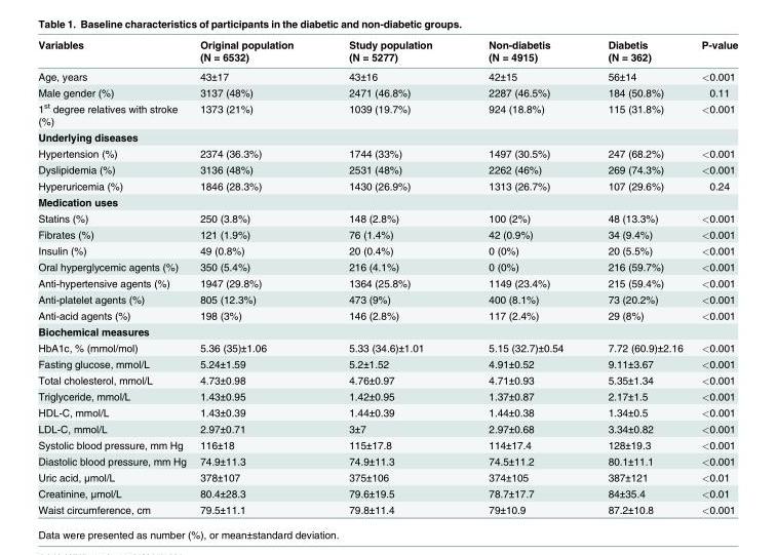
<table><thead><tr><td>Variables</td><td>Original population (N = 6532)</td><td>Study population (N = 5277)</td><td>Non-diabetis (N = 4915)</td><td>Diabetis (N = 362)</td><td>P-value</td></tr></thead><tbody><tr><td>Age, years</td><td>43±17</td><td>43±16</td><td>42±15</td><td>56±14</td><td>&lt;0.001</td></tr><tr><td>Male gender (%)</td><td>3137 (48%)</td><td>2471 (46.8%)</td><td>2287 (46.5%)</td><td>184 (50.8%)</td><td>0.11</td></tr><tr><td>1<sup>st</sup> degree relatives with stroke (%)</td><td>1373 (21%)</td><td>1039 (19.7%)</td><td>924 (18.8%)</td><td>115 (31.8%)</td><td>&lt;0.001</td></tr><tr><td colspan="6">Underlying diseases</td></tr><tr><td>Hypertension (%)</td><td>2374 (36.3%)</td><td>1744 (33%)</td><td>1497 (30.5%)</td><td>247 (68.2%)</td><td>&lt;0.001</td></tr><tr><td>Dyslipidemia (%)</td><td>3136 (48%)</td><td>2531 (48%)</td><td>2262 (46%)</td><td>269 (74.3%)</td><td>&lt;0.001</td></tr><tr><td>Hyperuricemia (%)</td><td>1846 (28.3%)</td><td>1430 (26.9%)</td><td>1313 (26.7%)</td><td>107 (29.6%)</td><td>0.24</td></tr><tr><td colspan="6">Medication uses</td></tr><tr><td>Statins (%)</td><td>250 (3.8%)</td><td>148 (2.8%)</td><td>100 (2%)</td><td>48 (13.3%)</td><td>&lt;0.001</td></tr><tr><td>Fibrates (%)</td><td>121 (1.9%)</td><td>76 (1.4%)</td><td>42 (0.9%)</td><td>34 (9.4%)</td><td>&lt;0.001</td></tr><tr><td>Insulin (%)</td><td>49 (0.8%)</td><td>20 (0.4%)</td><td>0 (0%)</td><td>20 (5.5%)</td><td>&lt;0.001</td></tr><tr><td>Oral hyperglycemic agents (%)</td><td>350 (5.4%)</td><td>216 (4.1%)</td><td>0 (0%)</td><td>216 (59.7%)</td><td>&lt;0.001</td></tr><tr><td>Anti-hypertensive agents (%)</td><td>1947 (29.8%)</td><td>1364 (25.8%)</td><td>1149 (23.4%)</td><td>215 (59.4%)</td><td>&lt;0.001</td></tr><tr><td>Anti-platelet agents (%)</td><td>805 (12.3%)</td><td>473 (9%)</td><td>400 (8.1%)</td><td>73 (20.2%)</td><td>&lt;0.001</td></tr><tr><td>Anti-acid agents (%)</td><td>198 (3%)</td><td>146 (2.8%)</td><td>117 (2.4%)</td><td>29 (8%)</td><td>&lt;0.001</td></tr><tr><td colspan="6">Biochemical measures</td></tr><tr><td>HbA1c, % (mmol/mol)</td><td>5.36 (35)±1.06</td><td>5.33 (34.6)±1.01</td><td>5.15 (32.7)±0.54</td><td>7.72 (60.9)±2.16</td><td>&lt;0.001</td></tr><tr><td>Fasting glucose, mmol/L</td><td>5.24±1.59</td><td>5.2±1.52</td><td>4.91±0.52</td><td>9.11±3.67</td><td>&lt;0.001</td></tr><tr><td>Total cholesterol, mmol/L</td><td>4.73±0.98</td><td>4.76±0.97</td><td>4.71±0.93</td><td>5.35±1.34</td><td>&lt;0.001</td></tr><tr><td>Triglyceride, mmol/L</td><td>1.43±0.95</td><td>1.42±0.95</td><td>1.37±0.87</td><td>2.17±1.5</td><td>&lt;0.001</td></tr><tr><td>HDL-C, mmol/L</td><td>1.43±0.39</td><td>1.44±0.39</td><td>1.44±0.38</td><td>1.34±0.5</td><td>&lt;0.001</td></tr><tr><td>LDL-C, mmol/L</td><td>2.97±0.71</td><td>3±7</td><td>2.97±0.68</td><td>3.34±0.82</td><td>&lt;0.001</td></tr><tr><td>Systolic blood pressure, mm Hg</td><td>116±18</td><td>115±17.8</td><td>114±17.4</td><td>128±19.3</td><td>&lt;0.001</td></tr><tr><td>Diastolic blood pressure, mm Hg</td><td>74.9±11.3</td><td>74.9±11.3</td><td>74.5±11.2</td><td>80.1±11.1</td><td>&lt;0.001</td></tr><tr><td>Uric acid, μmol/L</td><td>378±107</td><td>375±106</td><td>374±105</td><td>387±121</td><td>&lt;0.01</td></tr><tr><td>Creatinine, μmol/L</td><td>80.4±28.3</td><td>79.6±19.5</td><td>78.7±17.7</td><td>84±35.4</td><td>&lt;0.01</td></tr><tr><td>Waist circumference, cm</td><td>79.5±11.1</td><td>79.8±11.4</td><td>79±10.9</td><td>87.2±10.8</td><td>&lt;0.001</td></tr></tbody></table>